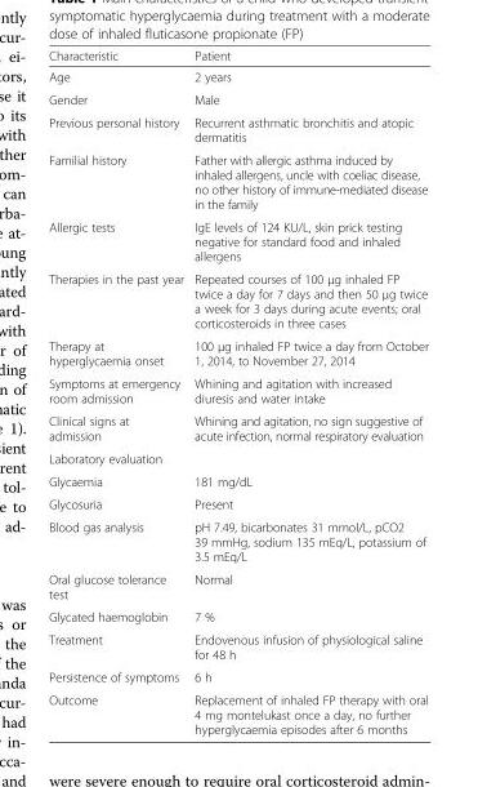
<table><thead><tr><td>Characteristic</td><td>Patient</td></tr></thead><tbody><tr><td>Age</td><td>2 years</td></tr><tr><td>Gender</td><td>Male</td></tr><tr><td>Previous personal history</td><td>Recurrent asthmatic bronchitis and atopic dermatitis</td></tr><tr><td>Familial history</td><td>Father with allergic asthma induced by inhaled allergens, uncle with coeliac disease, no other history of immune-mediated disease in the family</td></tr><tr><td>Allergic tests</td><td>IgE levels of 124 KU/L, skin prick testing negative for standard food and inhaled allergens</td></tr><tr><td>Therapies in the past year</td><td>Repeated courses of 100 μg inhaled FP twice a day for 7 days and then 50 μg twice a week for 3 days during acute events; oral corticosteroids in three cases</td></tr><tr><td>Therapy at hyperglycaemia onset</td><td>100 μg inhaled FP twice a day from October 1, 2014, to November 27, 2014</td></tr><tr><td>Symptoms at emergency room admission</td><td>Whining and agitation with increased diuresis and water intake</td></tr><tr><td>Clinical signs at admission</td><td>Whining and agitation, no sign suggestive of acute infection, normal respiratory evaluation</td></tr><tr><td colspan="2">Laboratory evaluation</td></tr><tr><td>Glycaemia</td><td>181 mg/dL</td></tr><tr><td>Glycosuria</td><td>Present</td></tr><tr><td>Blood gas analysis</td><td>pH 7.49, bicarbonates 31 mmol/L, pCO2 39 mmHg, sodium 135 mEq/L, potassium of 3.5 mEq/L</td></tr><tr><td>Oral glucose tolerance test</td><td>Normal</td></tr><tr><td>Glycated haemoglobin</td><td>7 %</td></tr><tr><td>Treatment</td><td>Endovenous infusion of physiological saline for 48 h</td></tr><tr><td>Persistence of symptoms</td><td>6 h</td></tr><tr><td>Outcome</td><td>Replacement of inhaled FP therapy with oral 4 mg montelukast once a day, no further hyperglycaemia episodes after 6 months</td></tr></tbody></table>